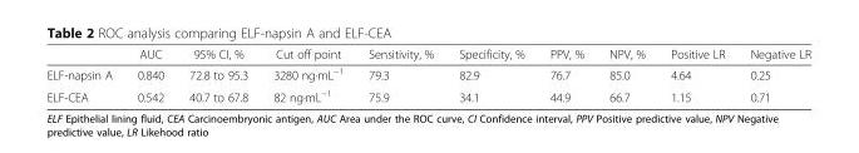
<table><thead><tr><td></td><td>AUC</td><td>95% CI, %</td><td>Cut off point</td><td>Sensitivity, %</td><td>Specificity, %</td><td>PPV, %</td><td>NPV, %</td><td>Positive LR</td><td>Negative LR</td></tr></thead><tbody><tr><td>ELF-napsin A</td><td>0.840</td><td>72.8 to 95.3</td><td>3280 ng∙mL<sup>−1</sup></td><td>79.3</td><td>82.9</td><td>76.7</td><td>85.0</td><td>4.64</td><td>0.25</td></tr><tr><td>ELF-CEA</td><td>0.542</td><td>40.7 to 67.8</td><td>82 ng∙mL<sup>−1</sup></td><td>75.9</td><td>34.1</td><td>44.9</td><td>66.7</td><td>1.15</td><td>0.71</td></tr></tbody></table>